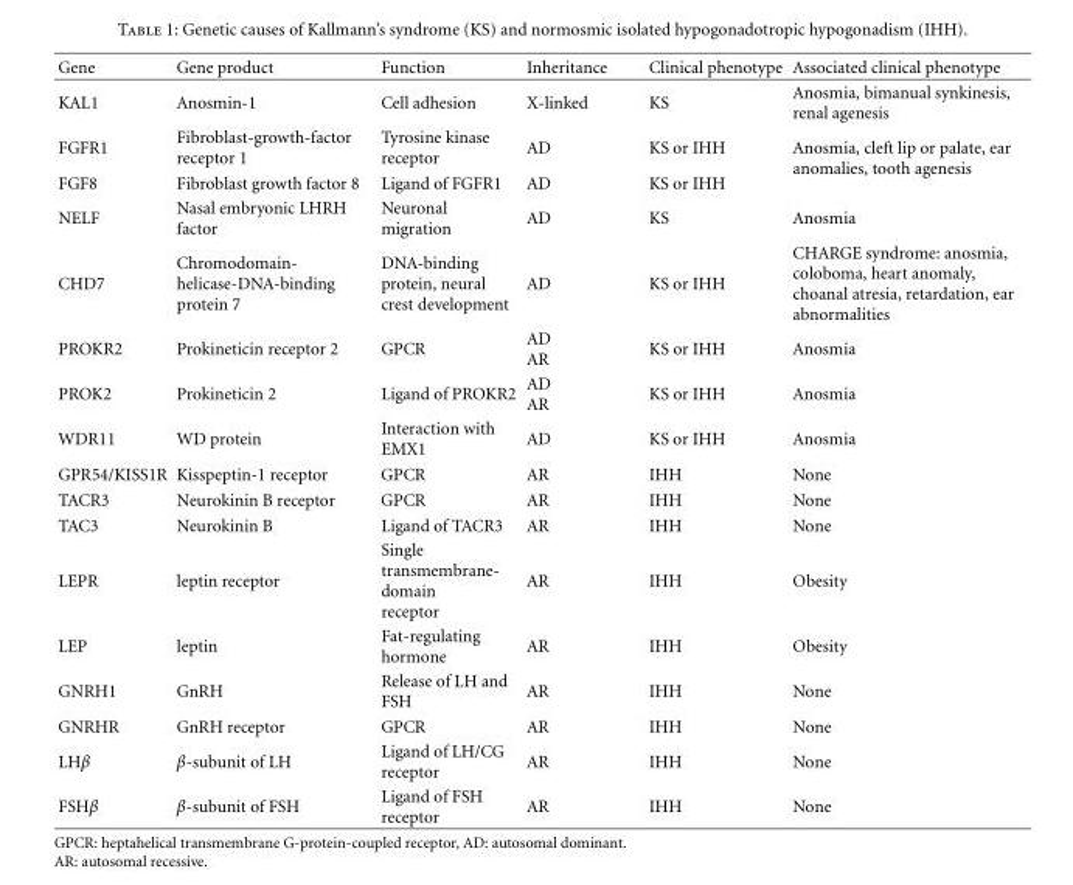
<table><thead><tr><td>Gene</td><td>Gene product</td><td>Function</td><td>Inheritance</td><td>Clinical phenotype</td><td>Associated clinical phenotype</td></tr></thead><tbody><tr><td>KAL1</td><td>Anosmin-1</td><td>Cell adhesion</td><td>X-linked</td><td>KS</td><td>Anosmia, bimanual synkinesis, renal agenesis</td></tr><tr><td>FGFR1</td><td>Fibroblast-growth-factor receptor 1</td><td>Tyrosine kinase receptor</td><td>AD</td><td>KS or IHH</td><td rowspan="2">Anosmia, cleft lip or palate, ear anomalies, tooth agenesis</td></tr><tr><td>FGF8</td><td>Fibroblast growth factor 8</td><td>Ligand of FGFR1</td><td>AD</td><td>KS or IHH</td></tr><tr><td>NELF</td><td>Nasal embryonic LHRH factor</td><td>Neuronal migration</td><td>AD</td><td>KS</td><td>Anosmia</td></tr><tr><td>CHD7</td><td>Chromodomain- helicase-DNA-binding protein 7</td><td>DNA-binding protein, neural crest development</td><td>AD</td><td>KS or IHH</td><td>CHARGE syndrome: anosmia, coloboma, heart anomaly, choanal atresia, retardation, ear abnormalities</td></tr><tr><td>PROKR2</td><td>Prokineticin receptor 2</td><td>GPCR</td><td>AD AR</td><td>KS or IHH</td><td>Anosmia</td></tr><tr><td>PROK2</td><td>Prokineticin 2</td><td>Ligand of PROKR2</td><td>AD AR</td><td>KS or IHH</td><td>Anosmia</td></tr><tr><td>WDR11</td><td>WD protein</td><td>Interaction with EMX1</td><td>AD</td><td>KS or IHH</td><td>Anosmia</td></tr><tr><td>GPR54/KISS1R</td><td>Kisspeptin-1 receptor</td><td>GPCR</td><td>AR</td><td>IHH</td><td>None</td></tr><tr><td>TACR3</td><td>Neurokinin B receptor</td><td>GPCR</td><td>AR</td><td>IHH</td><td>None</td></tr><tr><td>TAC3</td><td>Neurokinin B</td><td>Ligand of TACR3</td><td>AR</td><td>IHH</td><td>None</td></tr><tr><td>LEPR</td><td>leptin receptor</td><td>Single transmembrane- domain receptor</td><td>AR</td><td>IHH</td><td>Obesity</td></tr><tr><td>LEP</td><td>leptin</td><td>Fat-regulating hormone</td><td>AR</td><td>IHH</td><td>Obesity</td></tr><tr><td>GNRH1</td><td>GnRH</td><td>Release of LH and FSH</td><td>AR</td><td>IHH</td><td>None</td></tr><tr><td>GNRHR</td><td>GnRH receptor</td><td>GPCR</td><td>AR</td><td>IHH</td><td>None</td></tr><tr><td>LHβ</td><td>β-subunit of LH</td><td>Ligand of LH/CG receptor</td><td>AR</td><td>IHH</td><td>None</td></tr><tr><td>FSHβ</td><td>β-subunit of FSH</td><td>Ligand of FSH receptor</td><td>AR</td><td>IHH</td><td>None</td></tr></tbody></table>